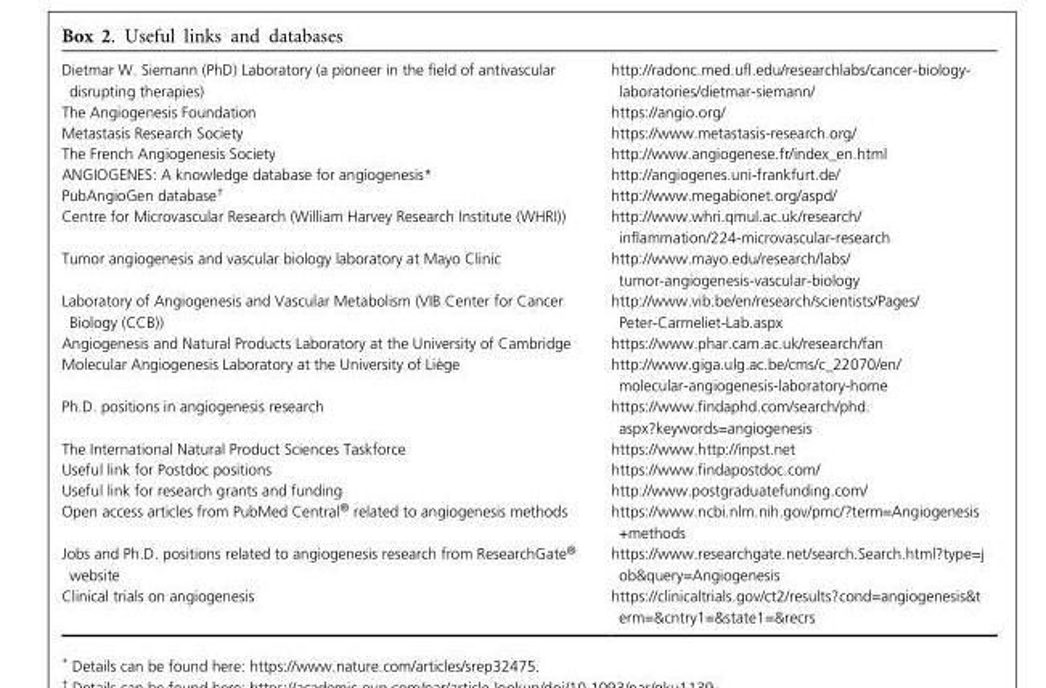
<table><tbody><tr><td>Dietmar W. Siemann (PhD) Laboratory (a pioneer in the field of antivascular disrupting therapies)</td><td>http://radonc.med.ufl.edu/researchlabs/cancer-biology- laboratories/dietmar-siemann/</td></tr><tr><td>The Angiogenesis Foundation</td><td>https://angio.org/</td></tr><tr><td>Metastasis Research Society</td><td>https://www.metastasis-research.org/</td></tr><tr><td>The French Angiogenesis Society</td><td>http://www.angiogenese.fr/index_en.html</td></tr><tr><td>ANGIOGENES: A knowledge database for angiogenesis*</td><td>http://angiogenes.uni-frankfurt.de/</td></tr><tr><td>PubAngioGen database†</td><td>http://www.megabionet.org/aspd/</td></tr><tr><td>Centre for Microvascular Research (William Harvey Research Institute (WHRI))</td><td>http://www.whri.qmul.ac.uk/research/ inflammation/224-microvascular-research</td></tr><tr><td>Tumor angiogenesis and vascular biology laboratory at Mayo Clinic</td><td>http://www.mayo.edu/research/labs/ tumor-angiogenesis-vascular-biology</td></tr><tr><td>Laboratory of Angiogenesis and Vascular Metabolism (VIB Center for Cancer Biology (CCB))</td><td>http://www.vib.be/en/research/scientists/Pages/ Peter-Carmeliet-Lab.aspx</td></tr><tr><td>Angiogenesis and Natural Products Laboratory at the University of Cambridge</td><td>https://www.phar.cam.ac.uk/research/fan</td></tr><tr><td>Molecular Angiogenesis Laboratory at the University of Liège</td><td>http://www.giga.ulg.ac.be/cms/c_22070/en/ molecular-angiogenesis-laboratory-home</td></tr><tr><td>Ph.D. positions in angiogenesis research</td><td>https://www.findaphd.com/search/phd. aspx?keywords=angiogenesis</td></tr><tr><td>The International Natural Product Sciences Taskforce</td><td>https://www.http://inpst.net</td></tr><tr><td>Useful link for Postdoc positions</td><td>https://www.findapostdoc.com/</td></tr><tr><td>Useful link for research grants and funding</td><td>http://www.postgraduatefunding.com/</td></tr><tr><td>Open access articles from PubMed Central<sup>®</sup> related to angiogenesis methods</td><td>https://www.ncbi.nlm.nih.gov/pmc/?term=Angiogenesis +methods</td></tr><tr><td>Jobs and Ph.D. positions related to angiogenesis research from ResearchGate<sup>®</sup> website</td><td>https://www.researchgate.net/search.Search.html?type=j ob&amp;query=Angiogenesis</td></tr><tr><td>Clinical trials on angiogenesis</td><td>https://clinicaltrials.gov/ct2/results?cond=angiogenesis&amp;t erm=&amp;cntry1=&amp;state1=&amp;recrs</td></tr></tbody></table>